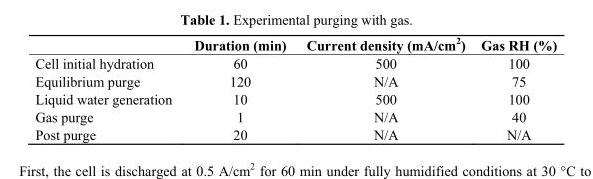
<table><thead><tr><td></td><td>Duration (min)</td><td>Current density (mA/cm<sup>2</sup>)</td><td>Gas RH (%)</td></tr></thead><tbody><tr><td>Cell initial hydration</td><td>60</td><td>500</td><td>100</td></tr><tr><td>Equilibrium purge</td><td>120</td><td>N/A</td><td>75</td></tr><tr><td>Liquid water generation</td><td>10</td><td>500</td><td>100</td></tr><tr><td>Gas purge</td><td>1</td><td>N/A</td><td>40</td></tr><tr><td>Post purge</td><td>20</td><td>N/A</td><td>N/A</td></tr></tbody></table>